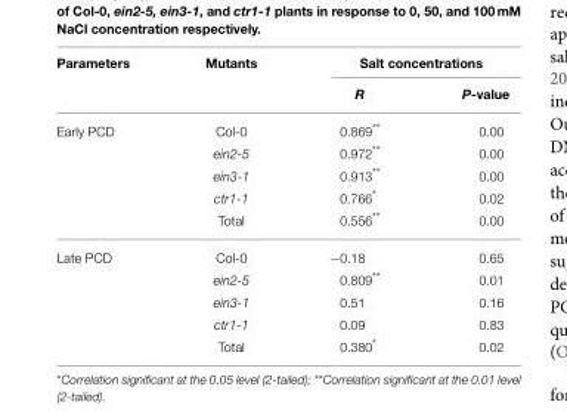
<table><thead><tr><td rowspan="2">Parameters</td><td rowspan="2">Mutants</td><td colspan="2">Salt concentrations</td></tr><tr><td>R</td><td>P-value</td></tr></thead><tbody><tr><td rowspan="5">Early PCD</td><td>Col-0</td><td>0.869**</td><td>0.00</td></tr><tr><td>ein2-5</td><td>0.972**</td><td>0.00</td></tr><tr><td>ein3-1</td><td>0.913**</td><td>0.00</td></tr><tr><td>ctr1-1</td><td>0.766*</td><td>0.02</td></tr><tr><td>Total</td><td>0.556**</td><td>0.00</td></tr><tr><td rowspan="5">Late PCD</td><td>Col-0</td><td>−0.18</td><td>0.65</td></tr><tr><td>ein2-5</td><td>0.809**</td><td>0.01</td></tr><tr><td>ein3-1</td><td>0.51</td><td>0.16</td></tr><tr><td>ctr1-1</td><td>0.09</td><td>0.83</td></tr><tr><td>Total</td><td>0.380*</td><td>0.02</td></tr></tbody></table>